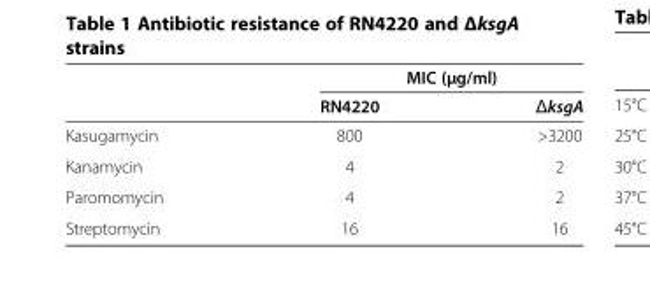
<table><thead><tr><td rowspan="2"></td><td colspan="2">MIC (μg/ml)</td></tr><tr><td>RN4220</td><td>ΔksgA</td></tr></thead><tbody><tr><td>Kasugamycin</td><td>800</td><td>&gt;3200</td></tr><tr><td>Kanamycin</td><td>4</td><td>2</td></tr><tr><td>Paromomycin</td><td>4</td><td>2</td></tr><tr><td>Streptomycin</td><td>16</td><td>16</td></tr></tbody></table>